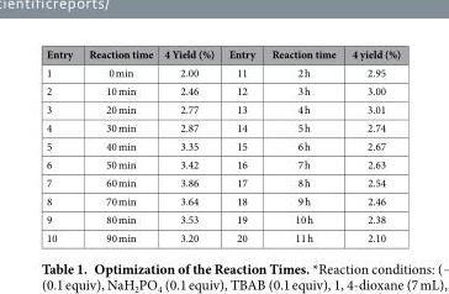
<table><thead><tr><td>Entry</td><td>Reaction time</td><td>4 Yield (%)</td><td>Entry</td><td>Reaction time</td><td>4 yield (%)</td></tr></thead><tbody><tr><td>1</td><td>0 min</td><td>2.00</td><td>11</td><td>2 h</td><td>2.95</td></tr><tr><td>2</td><td>10 min</td><td>2.46</td><td>12</td><td>3 h</td><td>3.00</td></tr><tr><td>3</td><td>20 min</td><td>2.77</td><td>13</td><td>4 h</td><td>3.01</td></tr><tr><td>4</td><td>30 min</td><td>2.87</td><td>14</td><td>5 h</td><td>2.74</td></tr><tr><td>5</td><td>40 min</td><td>3.35</td><td>15</td><td>6 h</td><td>2.67</td></tr><tr><td>6</td><td>50 min</td><td>3.42</td><td>16</td><td>7 h</td><td>2.63</td></tr><tr><td>7</td><td>60 min</td><td>3.86</td><td>17</td><td>8 h</td><td>2.54</td></tr><tr><td>8</td><td>70 min</td><td>3.64</td><td>18</td><td>9 h</td><td>2.46</td></tr><tr><td>9</td><td>80 min</td><td>3.53</td><td>19</td><td>10 h</td><td>2.38</td></tr><tr><td>10</td><td>90 min</td><td>3.20</td><td>20</td><td>11 h</td><td>2.10</td></tr></tbody></table>